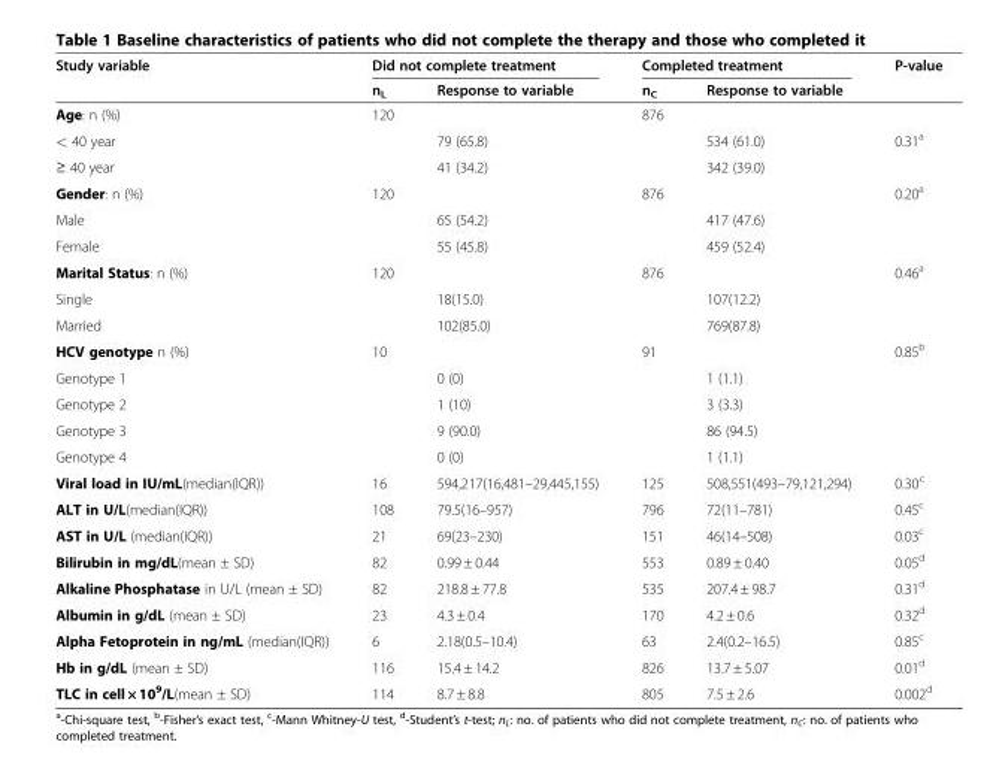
<table><thead><tr><td rowspan="2">Study variable</td><td colspan="2">Did not complete treatment</td><td colspan="2">Completed treatment</td><td rowspan="2">P-value</td></tr><tr><td>n<sub>L</sub></td><td>Response to variable</td><td>n<sub>C</sub></td><td>Response to variable</td></tr></thead><tbody><tr><td>Age: n (%)</td><td>120</td><td></td><td>876</td><td></td><td></td></tr><tr><td>&lt; 40 year</td><td></td><td>79 (65.8)</td><td></td><td>534 (61.0)</td><td>0.31<sup>a</sup></td></tr><tr><td>≥ 40 year</td><td></td><td>41 (34.2)</td><td></td><td>342 (39.0)</td><td></td></tr><tr><td>Gender: n (%)</td><td>120</td><td></td><td>876</td><td></td><td>0.20<sup>a</sup></td></tr><tr><td>Male</td><td></td><td>65 (54.2)</td><td></td><td>417 (47.6)</td><td></td></tr><tr><td>Female</td><td></td><td>55 (45.8)</td><td></td><td>459 (52.4)</td><td></td></tr><tr><td>Marital Status: n (%)</td><td>120</td><td></td><td>876</td><td></td><td>0.46<sup>a</sup></td></tr><tr><td>Single</td><td></td><td>18(15.0)</td><td></td><td>107(12.2)</td><td></td></tr><tr><td>Married</td><td></td><td>102(85.0)</td><td></td><td>769(87.8)</td><td></td></tr><tr><td>HCV genotype n (%)</td><td>10</td><td></td><td>91</td><td></td><td>0.85<sup>b</sup></td></tr><tr><td>Genotype 1</td><td></td><td>0 (0)</td><td></td><td>1 (1.1)</td><td></td></tr><tr><td>Genotype 2</td><td></td><td>1 (10)</td><td></td><td>3 (3.3)</td><td></td></tr><tr><td>Genotype 3</td><td></td><td>9 (90.0)</td><td></td><td>86 (94.5)</td><td></td></tr><tr><td>Genotype 4</td><td></td><td>0 (0)</td><td></td><td>1 (1.1)</td><td></td></tr><tr><td>Viral load in IU/mL(median(IQR))</td><td>16</td><td>594,217(16,481–29,445,155)</td><td>125</td><td>508,551(493–79,121,294)</td><td>0.30<sup>c</sup></td></tr><tr><td>ALT in U/L(median(IQR))</td><td>108</td><td>79.5(16–957)</td><td>796</td><td>72(11–781)</td><td>0.45<sup>c</sup></td></tr><tr><td>AST in U/L (median(IQR))</td><td>21</td><td>69(23–230)</td><td>151</td><td>46(14–508)</td><td>0.03<sup>c</sup></td></tr><tr><td>Bilirubin in mg/dL(mean ± SD)</td><td>82</td><td>0.99 ± 0.44</td><td>553</td><td>0.89 ± 0.40</td><td>0.05<sup>d</sup></td></tr><tr><td>Alkaline Phosphatase in U/L (mean ± SD)</td><td>82</td><td>218.8 ± 77.8</td><td>535</td><td>207.4 ± 98.7</td><td>0.31<sup>d</sup></td></tr><tr><td>Albumin in g/dL (mean ± SD)</td><td>23</td><td>4.3 ± 0.4</td><td>170</td><td>4.2 ± 0.6</td><td>0.32<sup>d</sup></td></tr><tr><td>Alpha Fetoprotein in ng/mL (median(IQR))</td><td>6</td><td>2.18(0.5–10.4)</td><td>63</td><td>2.4(0.2–16.5)</td><td>0.85<sup>c</sup></td></tr><tr><td>Hb in g/dL (mean ± SD)</td><td>116</td><td>15.4 ± 14.2</td><td>826</td><td>13.7 ± 5.07</td><td>0.01<sup>d</sup></td></tr><tr><td>TLC in cell × 10<sup>9</sup>/L(mean ± SD)</td><td>114</td><td>8.7 ± 8.8</td><td>805</td><td>7.5 ± 2.6</td><td>0.002<sup>d</sup></td></tr></tbody></table>